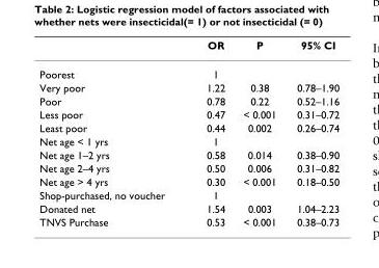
<table><thead><tr><td></td><td>OR</td><td>P</td><td>95% CI</td></tr></thead><tbody><tr><td>Poorest</td><td>1</td><td></td><td></td></tr><tr><td>Very poor</td><td>1.22</td><td>0.38</td><td>0.78–1.90</td></tr><tr><td>Poor</td><td>0.78</td><td>0.22</td><td>0.52–1.16</td></tr><tr><td>Less poor</td><td>0.47</td><td>&lt; 0.001</td><td>0.31–0.72</td></tr><tr><td>Least poor</td><td>0.44</td><td>0.002</td><td>0.26–0.74</td></tr><tr><td>Net age &lt; 1 yrs</td><td>1</td><td></td><td></td></tr><tr><td>Net age 1–2 yrs</td><td>0.58</td><td>0.014</td><td>0.38–0.90</td></tr><tr><td>Net age 2–4 yrs</td><td>0.50</td><td>0.006</td><td>0.31–0.82</td></tr><tr><td>Net age &gt; 4 yrs</td><td>0.30</td><td>&lt; 0.001</td><td>0.18–0.50</td></tr><tr><td>Shop-purchased, no voucher</td><td>1</td><td></td><td></td></tr><tr><td>Donated net</td><td>1.54</td><td>0.003</td><td>1.04–2.23</td></tr><tr><td>TNVS Purchase</td><td>0.53</td><td>&lt; 0.001</td><td>0.38–0.73</td></tr></tbody></table>